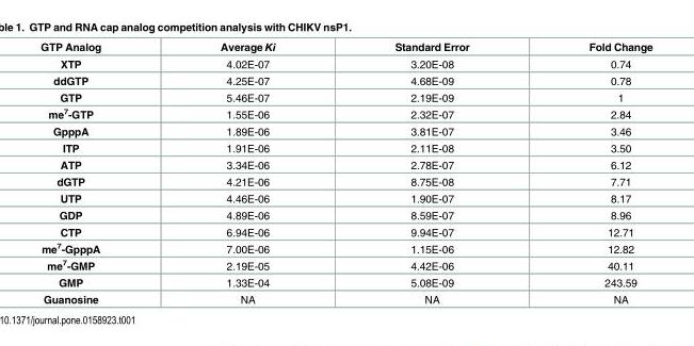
<table><thead><tr><td>GTP Analog</td><td>Average Ki</td><td>Standard Error</td><td>Fold Change</td></tr></thead><tbody><tr><td>XTP</td><td>4.02E-07</td><td>3.20E-08</td><td>0.74</td></tr><tr><td>ddGTP</td><td>4.25E-07</td><td>4.68E-09</td><td>0.78</td></tr><tr><td>GTP</td><td>5.46E-07</td><td>2.19E-09</td><td>1</td></tr><tr><td>me<sup>7</sup>-GTP</td><td>1.55E-06</td><td>2.32E-07</td><td>2.84</td></tr><tr><td>GpppA</td><td>1.89E-06</td><td>3.81E-07</td><td>3.46</td></tr><tr><td>ITP</td><td>1.91E-06</td><td>2.11E-08</td><td>3.50</td></tr><tr><td>ATP</td><td>3.34E-06</td><td>2.78E-07</td><td>6.12</td></tr><tr><td>dGTP</td><td>4.21E-06</td><td>8.75E-08</td><td>7.71</td></tr><tr><td>UTP</td><td>4.46E-06</td><td>1.90E-07</td><td>8.17</td></tr><tr><td>GDP</td><td>4.89E-06</td><td>8.59E-07</td><td>8.96</td></tr><tr><td>CTP</td><td>6.94E-06</td><td>9.94E-07</td><td>12.71</td></tr><tr><td>me<sup>7</sup>-GpppA</td><td>7.00E-06</td><td>1.15E-06</td><td>12.82</td></tr><tr><td>me<sup>7</sup>-GMP</td><td>2.19E-05</td><td>4.42E-06</td><td>40.11</td></tr><tr><td>GMP</td><td>1.33E-04</td><td>5.08E-09</td><td>243.59</td></tr><tr><td>Guanosine</td><td>NA</td><td>NA</td><td>NA</td></tr></tbody></table>